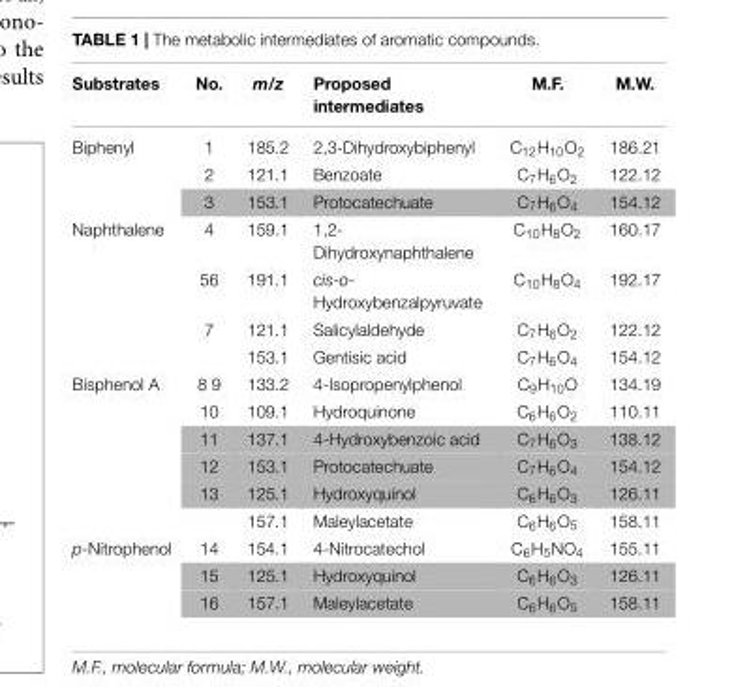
<table><thead><tr><td>Substrates</td><td>No.</td><td>m/z</td><td>Proposed intermediates</td><td>M.F.</td><td>M.W.</td></tr></thead><tbody><tr><td rowspan="3">Biphenyl</td><td>1</td><td>185.2</td><td>2,3-Dihydroxybiphenyl</td><td>C<sub>12</sub>H<sub>10</sub>O<sub>2</sub></td><td>186.21</td></tr><tr><td>2</td><td>121.1</td><td>Benzoate</td><td>C<sub>7</sub>H<sub>6</sub>O<sub>2</sub></td><td>122.12</td></tr><tr><td>3</td><td>153.1</td><td>Protocatechuate</td><td>C<sub>7</sub>H<sub>6</sub>O<sub>4</sub></td><td>154.12</td></tr><tr><td rowspan="4">Naphthalene</td><td>4</td><td>159.1</td><td>1,2- Dihydroxynaphthalene</td><td>C<sub>10</sub>H<sub>8</sub>O<sub>2</sub></td><td>160.17</td></tr><tr><td>56</td><td>191.1</td><td>cis-o- Hydroxybenzalpyruvate</td><td>C<sub>10</sub>H<sub>8</sub>O<sub>4</sub></td><td>192.17</td></tr><tr><td>7</td><td>121.1</td><td>Salicylaldehyde</td><td>C<sub>7</sub>H<sub>6</sub>O<sub>2</sub></td><td>122.12</td></tr><tr><td></td><td>153.1</td><td>Gentisic acid</td><td>C<sub>7</sub>H<sub>6</sub>O<sub>4</sub></td><td>154.12</td></tr><tr><td rowspan="6">Bisphenol A</td><td>8 9</td><td>133.2</td><td>4-Isopropenylphenol</td><td>C<sub>9</sub>H<sub>10</sub>O</td><td>134.19</td></tr><tr><td>10</td><td>109.1</td><td>Hydroquinone</td><td>C<sub>6</sub>H<sub>6</sub>O<sub>2</sub></td><td>110.11</td></tr><tr><td>11</td><td>137.1</td><td>4-Hydroxybenzoic acid</td><td>C<sub>7</sub>H<sub>6</sub>O<sub>3</sub></td><td>138.12</td></tr><tr><td>12</td><td>153.1</td><td>Protocatechuate</td><td>C<sub>7</sub>H<sub>6</sub>O<sub>4</sub></td><td>154.12</td></tr><tr><td>13</td><td>125.1</td><td>Hydroxyquinol</td><td>C<sub>6</sub>H<sub>6</sub>O<sub>3</sub></td><td>126.11</td></tr><tr><td></td><td>157.1</td><td>Maleylacetate</td><td>C<sub>6</sub>H<sub>6</sub>O<sub>5</sub></td><td>158.11</td></tr><tr><td rowspan="3">p-Nitrophenol</td><td>14</td><td>154.1</td><td>4-Nitrocatechol</td><td>C<sub>6</sub>H<sub>5</sub>NO<sub>4</sub></td><td>155.11</td></tr><tr><td>15</td><td>125.1</td><td>Hydroxyquinol</td><td>C<sub>6</sub>H<sub>6</sub>O<sub>3</sub></td><td>126.11</td></tr><tr><td>16</td><td>157.1</td><td>Maleylacetate</td><td>C<sub>6</sub>H<sub>6</sub>O<sub>5</sub></td><td>158.11</td></tr></tbody></table>